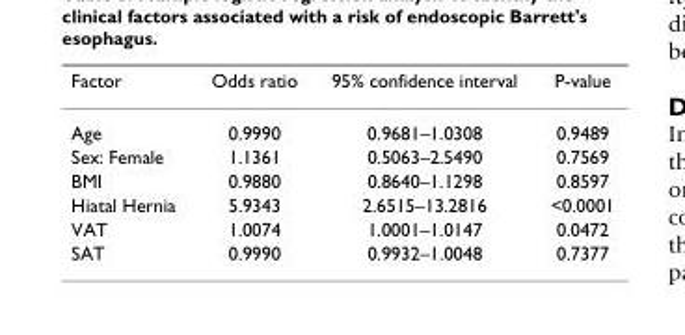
<table><thead><tr><td>Factor</td><td>Odds ratio</td><td>95% confidence interval</td><td>P-value</td></tr></thead><tbody><tr><td>Age</td><td>0.9990</td><td>0.9681–1.0308</td><td>0.9489</td></tr><tr><td>Sex: Female</td><td>1.1361</td><td>0.5063–2.5490</td><td>0.7569</td></tr><tr><td>BMI</td><td>0.9880</td><td>0.8640–1.1298</td><td>0.8597</td></tr><tr><td>Hiatal Hernia</td><td>5.9343</td><td>2.6515–13.2816</td><td>&lt;0.0001</td></tr><tr><td>VAT</td><td>1.0074</td><td>1.0001–1.0147</td><td>0.0472</td></tr><tr><td>SAT</td><td>0.9990</td><td>0.9932–1.0048</td><td>0.7377</td></tr></tbody></table>